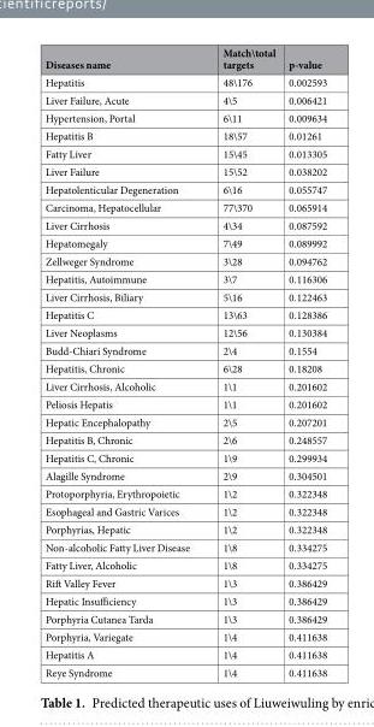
<table><thead><tr><td>Diseases name</td><td>Match\total targets</td><td>p-value</td></tr></thead><tbody><tr><td>Hepatitis</td><td>48\176</td><td>0.002593</td></tr><tr><td>Liver Failure, Acute</td><td>4\5</td><td>0.006421</td></tr><tr><td>Hypertension, Portal</td><td>6\11</td><td>0.009634</td></tr><tr><td>Hepatitis B</td><td>18\57</td><td>0.01261</td></tr><tr><td>Fatty Liver</td><td>15\45</td><td>0.013305</td></tr><tr><td>Liver Failure</td><td>15\52</td><td>0.038202</td></tr><tr><td>Hepatolenticular Degeneration</td><td>6\16</td><td>0.055747</td></tr><tr><td>Carcinoma, Hepatocellular</td><td>77\370</td><td>0.065914</td></tr><tr><td>Liver Cirrhosis</td><td>4\34</td><td>0.087592</td></tr><tr><td>Hepatomegaly</td><td>7\49</td><td>0.089992</td></tr><tr><td>Zellweger Syndrome</td><td>3\28</td><td>0.094762</td></tr><tr><td>Hepatitis, Autoimmune</td><td>3\7</td><td>0.116306</td></tr><tr><td>Liver Cirrhosis, Biliary</td><td>5\16</td><td>0.122463</td></tr><tr><td>Hepatitis C</td><td>13\63</td><td>0.128386</td></tr><tr><td>Liver Neoplasms</td><td>12\56</td><td>0.130384</td></tr><tr><td>Budd-Chiari Syndrome</td><td>2\4</td><td>0.1554</td></tr><tr><td>Hepatitis, Chronic</td><td>6\28</td><td>0.18208</td></tr><tr><td>Liver Cirrhosis, Alcoholic</td><td>1\1</td><td>0.201602</td></tr><tr><td>Peliosis Hepatis</td><td>1\1</td><td>0.201602</td></tr><tr><td>Hepatic Encephalopathy</td><td>2\5</td><td>0.207201</td></tr><tr><td>Hepatitis B, Chronic</td><td>2\6</td><td>0.248557</td></tr><tr><td>Hepatitis C, Chronic</td><td>1\9</td><td>0.299934</td></tr><tr><td>Alagille Syndrome</td><td>2\9</td><td>0.304501</td></tr><tr><td>Protoporphyria, Erythropoietic</td><td>1\2</td><td>0.322348</td></tr><tr><td>Esophageal and Gastric Varices</td><td>1\2</td><td>0.322348</td></tr><tr><td>Porphyrias, Hepatic</td><td>1\2</td><td>0.322348</td></tr><tr><td>Non-alcoholic Fatty Liver Disease</td><td>1\8</td><td>0.334275</td></tr><tr><td>Fatty Liver, Alcoholic</td><td>1\8</td><td>0.334275</td></tr><tr><td>Rift Valley Fever</td><td>1\3</td><td>0.386429</td></tr><tr><td>Hepatic Insufficiency</td><td>1\3</td><td>0.386429</td></tr><tr><td>Porphyria Cutanea Tarda</td><td>1\3</td><td>0.386429</td></tr><tr><td>Porphyria, Variegate</td><td>1\4</td><td>0.411638</td></tr><tr><td>Hepatitis A</td><td>1\4</td><td>0.411638</td></tr><tr><td>Reye Syndrome</td><td>1\4</td><td>0.411638</td></tr></tbody></table>